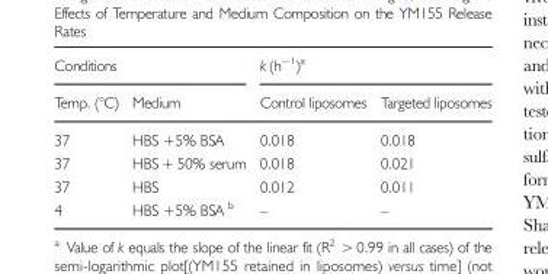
<table><thead><tr><td colspan="2">Conditions</td><td colspan="2">k (h<sup>−1</sup>)<sup>a</sup></td></tr><tr><td>Temp. (°C)</td><td>Medium</td><td>Control liposomes</td><td>Targeted liposomes</td></tr></thead><tbody><tr><td>37</td><td>HBS +5% BSA</td><td>0.018</td><td>0.018</td></tr><tr><td>37</td><td>HBS + 50% serum</td><td>0.018</td><td>0.021</td></tr><tr><td>37</td><td>HBS</td><td>0.012</td><td>0.011</td></tr><tr><td>4</td><td>HBS +5% BSA <sup>b</sup></td><td>–</td><td>–</td></tr></tbody></table>